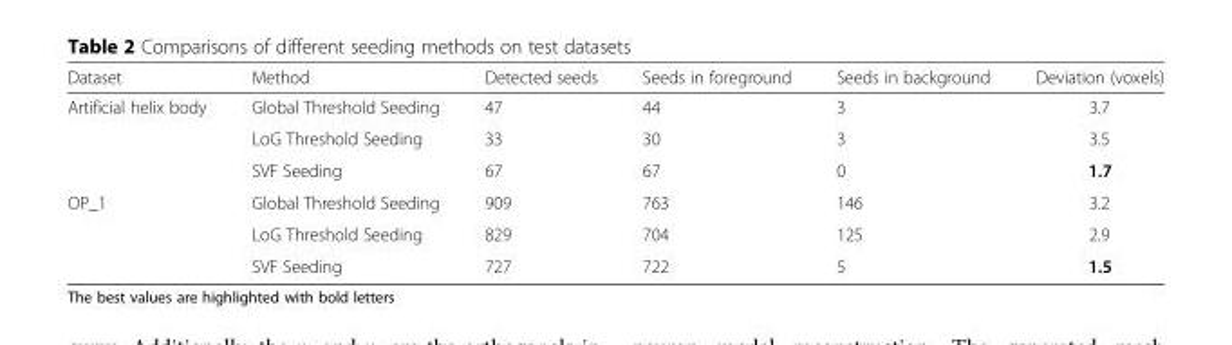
<table><thead><tr><td>Dataset</td><td>Method</td><td>Detected seeds</td><td>Seeds in foreground</td><td>Seeds in background</td><td>Deviation (voxels)</td></tr></thead><tbody><tr><td rowspan="3">Artificial helix body</td><td>Global Threshold Seeding</td><td>47</td><td>44</td><td>3</td><td>3.7</td></tr><tr><td>LoG Threshold Seeding</td><td>33</td><td>30</td><td>3</td><td>3.5</td></tr><tr><td>SVF Seeding</td><td>67</td><td>67</td><td>0</td><td>1.7</td></tr><tr><td rowspan="3">OP_1</td><td>Global Threshold Seeding</td><td>909</td><td>763</td><td>146</td><td>3.2</td></tr><tr><td>LoG Threshold Seeding</td><td>829</td><td>704</td><td>125</td><td>2.9</td></tr><tr><td>SVF Seeding</td><td>727</td><td>722</td><td>5</td><td>1.5</td></tr></tbody></table>